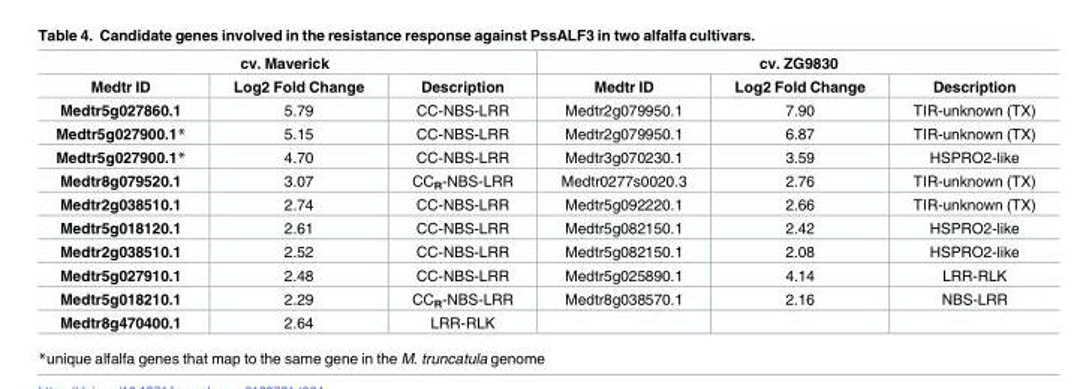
<table><thead><tr><td colspan="3">cv. Maverick</td><td colspan="3">cv. ZG9830</td></tr><tr><td>Medtr ID</td><td>Log2 Fold Change</td><td>Description</td><td>Medtr ID</td><td>Log2 Fold Change</td><td>Description</td></tr></thead><tbody><tr><td>Medtr5g027860.1</td><td>5.79</td><td>CC-NBS-LRR</td><td>Medtr2g079950.1</td><td>7.90</td><td>TIR-unknown (TX)</td></tr><tr><td>Medtr5g027900.1*</td><td>5.15</td><td>CC-NBS-LRR</td><td>Medtr2g079950.1</td><td>6.87</td><td>TIR-unknown (TX)</td></tr><tr><td>Medtr5g027900.1*</td><td>4.70</td><td>CC-NBS-LRR</td><td>Medtr3g070230.1</td><td>3.59</td><td>HSPRO2-like</td></tr><tr><td>Medtr8g079520.1</td><td>3.07</td><td>CC<sub>R</sub>-NBS-LRR</td><td>Medtr0277s0020.3</td><td>2.76</td><td>TIR-unknown (TX)</td></tr><tr><td>Medtr2g038510.1</td><td>2.74</td><td>CC-NBS-LRR</td><td>Medtr5g092220.1</td><td>2.66</td><td>TIR-unknown (TX)</td></tr><tr><td>Medtr5g018120.1</td><td>2.61</td><td>CC-NBS-LRR</td><td>Medtr5g082150.1</td><td>2.42</td><td>HSPRO2-like</td></tr><tr><td>Medtr2g038510.1</td><td>2.52</td><td>CC-NBS-LRR</td><td>Medtr5g082150.1</td><td>2.08</td><td>HSPRO2-like</td></tr><tr><td>Medtr5g027910.1</td><td>2.48</td><td>CC-NBS-LRR</td><td>Medtr5g025890.1</td><td>4.14</td><td>LRR-RLK</td></tr><tr><td>Medtr5g018210.1</td><td>2.29</td><td>CC<sub>R</sub>-NBS-LRR</td><td>Medtr8g038570.1</td><td>2.16</td><td>NBS-LRR</td></tr><tr><td>Medtr8g470400.1</td><td>2.64</td><td>LRR-RLK</td><td></td><td></td><td></td></tr></tbody></table>